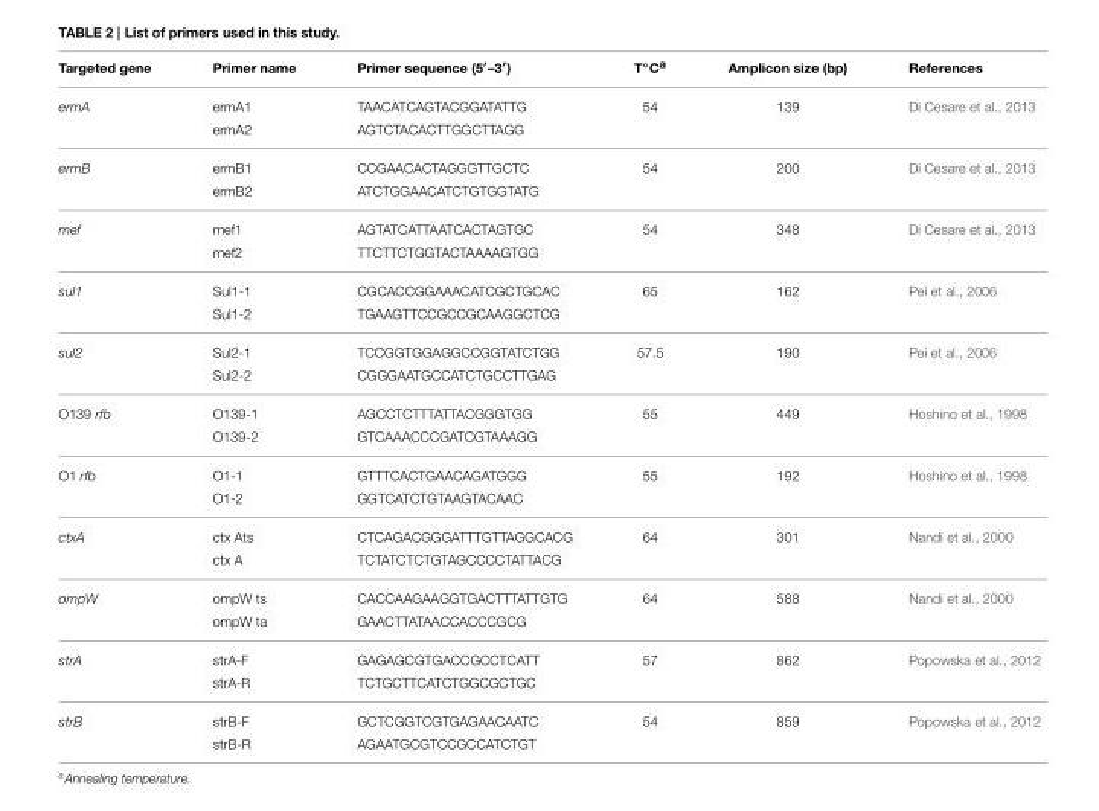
<table><thead><tr><td>Targeted gene</td><td>Primer name</td><td>Primer sequence (5′–3′)</td><td>T◦Ca</td><td>Amplicon size (bp)</td><td>References</td></tr></thead><tbody><tr><td rowspan="2">ermA</td><td>ermA1</td><td>TAACATCAGTACGGATATTG</td><td>54</td><td>139</td><td>Di Cesare et al., 2013</td></tr><tr><td>ermA2</td><td>AGTCTACACTTGGCTTAGG</td><td></td><td></td><td></td></tr><tr><td rowspan="2">ermB</td><td>ermB1</td><td>CCGAACACTAGGGTTGCTC</td><td>54</td><td>200</td><td>Di Cesare et al., 2013</td></tr><tr><td>ermB2</td><td>ATCTGGAACATCTGTGGTATG</td><td></td><td></td><td></td></tr><tr><td rowspan="2">mef</td><td>mef1</td><td>AGTATCATTAATCACTAGTGC</td><td>54</td><td>348</td><td>Di Cesare et al., 2013</td></tr><tr><td>mef2</td><td>TTCTTCTGGTACTAAAAGTGG</td><td></td><td></td><td></td></tr><tr><td rowspan="2">sul1</td><td>Sul1-1</td><td>CGCACCGGAAACATCGCTGCAC</td><td>65</td><td>162</td><td>Pei et al., 2006</td></tr><tr><td>Sul1-2</td><td>TGAAGTTCCGCCGCAAGGCTCG</td><td></td><td></td><td></td></tr><tr><td rowspan="2">sul2</td><td>Sul2-1</td><td>TCCGGTGGAGGCCGGTATCTGG</td><td>57.5</td><td>190</td><td>Pei et al., 2006</td></tr><tr><td>Sul2-2</td><td>CGGGAATGCCATCTGCCTTGAG</td><td></td><td></td><td></td></tr><tr><td rowspan="2">O139 rfb</td><td>O139-1</td><td>AGCCTCTTTATTACGGGTGG</td><td>55</td><td>449</td><td>Hoshino et al., 1998</td></tr><tr><td>O139-2</td><td>GTCAAACCCGATCGTAAAGG</td><td></td><td></td><td></td></tr><tr><td rowspan="2">O1 rfb</td><td>O1-1</td><td>GTTTCACTGAACAGATGGG</td><td>55</td><td>192</td><td>Hoshino et al., 1998</td></tr><tr><td>O1-2</td><td>GGTCATCTGTAAGTACAAC</td><td></td><td></td><td></td></tr><tr><td rowspan="2">ctxA</td><td>ctx Ats</td><td>CTCAGACGGGATTTGTTAGGCACG</td><td>64</td><td>301</td><td>Nandi et al., 2000</td></tr><tr><td>ctx A</td><td>TCTATCTCTGTAGCCCCTATTACG</td><td></td><td></td><td></td></tr><tr><td rowspan="2">ompW</td><td>ompW ts</td><td>CACCAAGAAGGTGACTTTATTGTG</td><td>64</td><td>588</td><td>Nandi et al., 2000</td></tr><tr><td>ompW ta</td><td>GAACTTATAACCACCCGCG</td><td></td><td></td><td></td></tr><tr><td rowspan="2">strA</td><td>strA-F</td><td>GAGAGCGTGACCGCCTCATT</td><td>57</td><td>862</td><td>Popowska et al., 2012</td></tr><tr><td>strA-R</td><td>TCTGCTTCATCTGGCGCTGC</td><td></td><td></td><td></td></tr><tr><td rowspan="2">strB</td><td>strB-F</td><td>GCTCGGTCGTGAGAACAATC</td><td>54</td><td>859</td><td>Popowska et al., 2012</td></tr><tr><td>strB-R</td><td>AGAATGCGTCCGCCATCTGT</td><td></td><td></td><td></td></tr></tbody></table>